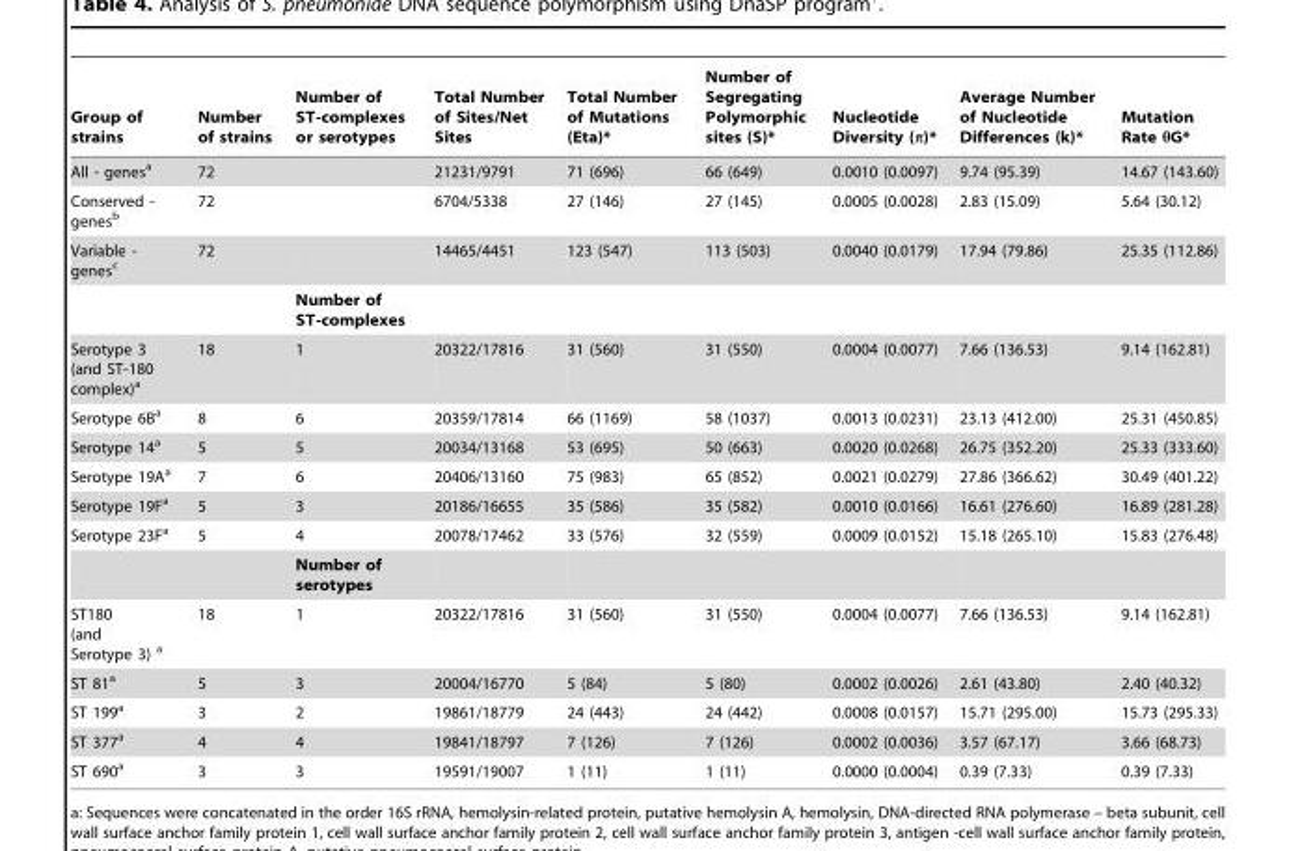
<table><thead><tr><td>Group of strains</td><td>Number of strains</td><td>Number of ST-complexes or serotypes</td><td>Total Number of Sites/Net Sites</td><td>Total Number of Mutations (Eta)*</td><td>Number of Segregating Polymorphic sites (S)*</td><td>Nucleotide Diversity (π)*</td><td>Average Number of Nucleotide Differences (k)*</td><td>Mutation Rate θG*</td></tr></thead><tbody><tr><td>All - genes<sup>a</sup></td><td>72</td><td></td><td>21231/9791</td><td>71 (696)</td><td>66 (649)</td><td>0.0010 (0.0097)</td><td>9.74 (95.39)</td><td>14.67 (143.60)</td></tr><tr><td>Conserved - genes<sup>b</sup></td><td>72</td><td></td><td>6704/5338</td><td>27 (146)</td><td>27 (145)</td><td>0.0005 (0.0028)</td><td>2.83 (15.09)</td><td>5.64 (30.12)</td></tr><tr><td rowspan="2">Variable - genes<sup>c</sup></td><td>72</td><td></td><td>14465/4451</td><td>123 (547)</td><td>113 (503)</td><td>0.0040 (0.0179)</td><td>17.94 (79.86)</td><td>25.35 (112.86)</td></tr><tr><td></td><td>Number of ST-complexes</td><td></td><td></td><td></td><td></td><td></td><td></td></tr><tr><td>Serotype 3 (and ST-180 complex)<sup>a</sup></td><td>18</td><td>1</td><td>20322/17816</td><td>31 (560)</td><td>31 (550)</td><td>0.0004 (0.0077)</td><td>7.66 (136.53)</td><td>9.14 (162.81)</td></tr><tr><td>Serotype 6B<sup>a</sup></td><td>8</td><td>6</td><td>20359/17814</td><td>66 (1169)</td><td>58 (1037)</td><td>0.0013 (0.0231)</td><td>23.13 (412.00)</td><td>25.31 (450.85)</td></tr><tr><td>Serotype 14<sup>a</sup></td><td>5</td><td>5</td><td>20034/13168</td><td>53 (695)</td><td>50 (663)</td><td>0.0020 (0.0268)</td><td>26.75 (352.20)</td><td>25.33 (333.60)</td></tr><tr><td>Serotype 19A<sup>a</sup></td><td>7</td><td>6</td><td>20406/13160</td><td>75 (983)</td><td>65 (852)</td><td>0.0021 (0.0279)</td><td>27.86 (366.62)</td><td>30.49 (401.22)</td></tr><tr><td>Serotype 19F<sup>a</sup></td><td>5</td><td>3</td><td>20186/16655</td><td>35 (586)</td><td>35 (582)</td><td>0.0010 (0.0166)</td><td>16.61 (276.60)</td><td>16.89 (281.28)</td></tr><tr><td rowspan="2">Serotype 23F<sup>a</sup></td><td>5</td><td>4</td><td>20078/17462</td><td>33 (576)</td><td>32 (559)</td><td>0.0009 (0.0152)</td><td>15.18 (265.10)</td><td>15.83 (276.48)</td></tr><tr><td></td><td>Number of serotypes</td><td></td><td></td><td></td><td></td><td></td><td></td></tr><tr><td>ST180 (and Serotype 3) a</td><td>18</td><td>1</td><td>20322/17816</td><td>31 (560)</td><td>31 (550)</td><td>0.0004 (0.0077)</td><td>7.66 (136.53)</td><td>9.14 (162.81)</td></tr><tr><td>ST 81<sup>a</sup></td><td>5</td><td>3</td><td>20004/16770</td><td>5 (84)</td><td>5 (80)</td><td>0.0002 (0.0026)</td><td>2.61 (43.80)</td><td>2.40 (40.32)</td></tr><tr><td>ST 199<sup>a</sup></td><td>3</td><td>2</td><td>19861/18779</td><td>24 (443)</td><td>24 (442)</td><td>0.0008 (0.0157)</td><td>15.71 (295.00)</td><td>15.73 (295.33)</td></tr><tr><td>ST 377<sup>a</sup></td><td>4</td><td>4</td><td>19841/18797</td><td>7 (126)</td><td>7 (126)</td><td>0.0002 (0.0036)</td><td>3.57 (67.17)</td><td>3.66 (68.73)</td></tr><tr><td>ST 690<sup>a</sup></td><td>3</td><td>3</td><td>19591/19007</td><td>1 (11)</td><td>1 (11)</td><td>0.0000 (0.0004)</td><td>0.39 (7.33)</td><td>0.39 (7.33)</td></tr></tbody></table>